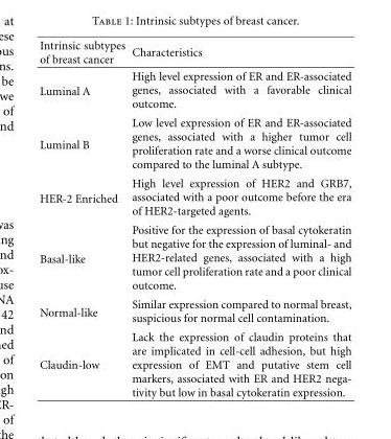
<table><thead><tr><td>Intrinsic subtypes of breast cancer</td><td>Characteristics</td></tr></thead><tbody><tr><td>Luminal A</td><td>High level expression of ER and ER-associated genes, associated with a favorable clinical outcome.</td></tr><tr><td>Luminal B</td><td>Low level expression of ER and ER-associated genes, associated with a higher tumor cell proliferation rate and a worse clinical outcome compared to the luminal A subtype.</td></tr><tr><td>HER-2 Enriched</td><td>High level expression of HER2 and GRB7, associated with a poor outcome before the era of HER2-targeted agents.</td></tr><tr><td>Basal-like</td><td>Positive for the expression of basal cytokeratin but negative for the expression of luminal- and HER2-related genes, associated with a high tumor cell proliferation rate and a poor clinical outcome.</td></tr><tr><td>Normal-like</td><td>Similar expression compared to normal breast, suspicious for normal cell contamination.</td></tr><tr><td>Claudin-low</td><td>Lack the expression of claudin proteins that are implicated in cell-cell adhesion, but high expression of EMT and putative stem cell markers, associated with ER and HER2 nega- tivity but low in basal cytokeratin expression.</td></tr></tbody></table>